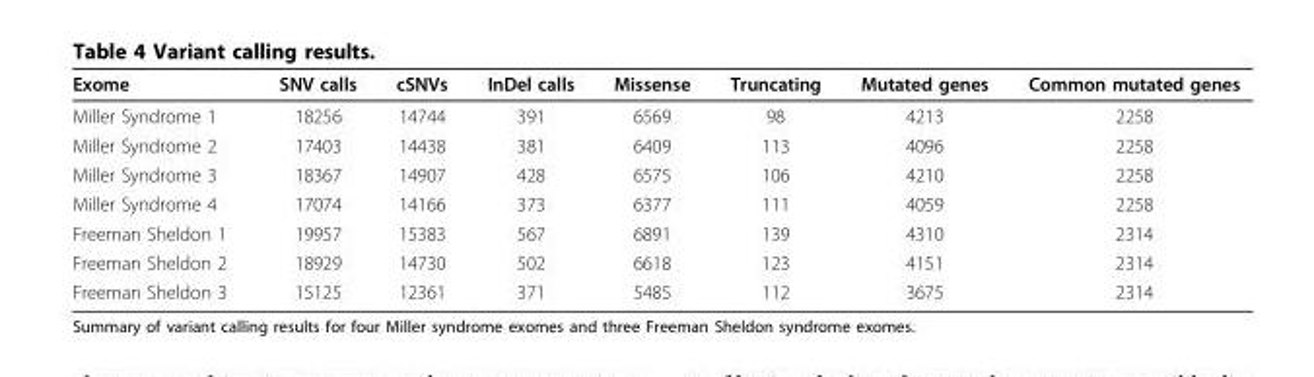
<table><thead><tr><td>Exome</td><td>SNV calls</td><td>cSNVs</td><td>InDel calls</td><td>Missense</td><td>Truncating</td><td>Mutated genes</td><td>Common mutated genes</td></tr></thead><tbody><tr><td>Miller Syndrome 1</td><td>18256</td><td>14744</td><td>391</td><td>6569</td><td>98</td><td>4213</td><td>2258</td></tr><tr><td>Miller Syndrome 2</td><td>17403</td><td>14438</td><td>381</td><td>6409</td><td>113</td><td>4096</td><td>2258</td></tr><tr><td>Miller Syndrome 3</td><td>18367</td><td>14907</td><td>428</td><td>6575</td><td>106</td><td>4210</td><td>2258</td></tr><tr><td>Miller Syndrome 4</td><td>17074</td><td>14166</td><td>373</td><td>6377</td><td>111</td><td>4059</td><td>2258</td></tr><tr><td>Freeman Sheldon 1</td><td>19957</td><td>15383</td><td>567</td><td>6891</td><td>139</td><td>4310</td><td>2314</td></tr><tr><td>Freeman Sheldon 2</td><td>18929</td><td>14730</td><td>502</td><td>6618</td><td>123</td><td>4151</td><td>2314</td></tr><tr><td>Freeman Sheldon 3</td><td>15125</td><td>12361</td><td>371</td><td>5485</td><td>112</td><td>3675</td><td>2314</td></tr></tbody></table>